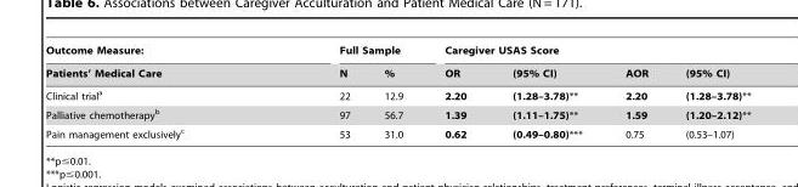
<table><thead><tr><td rowspan="2">Outcome Measure: Patients’ Medical Care</td><td colspan="2">Full Sample</td><td colspan="4">Caregiver USAS Score</td></tr><tr><td>N</td><td>%</td><td>OR</td><td>(95% CI)</td><td>AOR</td><td>(95% CI)</td></tr></thead><tbody><tr><td>Clinical trial<sup>a</sup></td><td>22</td><td>12.9</td><td>2.20</td><td>(1.28–3.78)**</td><td>2.20</td><td>(1.28–3.78)**</td></tr><tr><td>Palliative chemotherapy<sup>b</sup></td><td>97</td><td>56.7</td><td>1.39</td><td>(1.11–1.75)**</td><td>1.59</td><td>(1.20–2.12)**</td></tr><tr><td>Pain management exclusively<sup>c</sup></td><td>53</td><td>31.0</td><td>0.62</td><td>(0.49–0.80)***</td><td>0.75</td><td>(0.53–1.07)</td></tr></tbody></table>